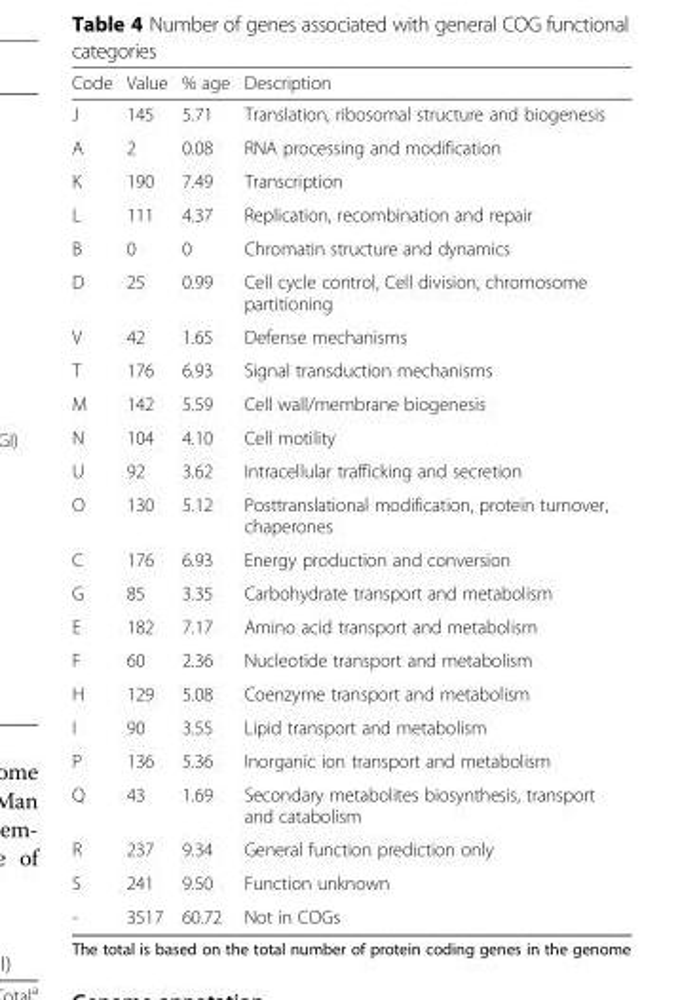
<table><thead><tr><td>Code</td><td>Value</td><td>% age</td><td>Description</td></tr></thead><tbody><tr><td>J</td><td>145</td><td>5.71</td><td>Translation, ribosomal structure and biogenesis</td></tr><tr><td>A</td><td>2</td><td>0.08</td><td>RNA processing and modification</td></tr><tr><td>K</td><td>190</td><td>7.49</td><td>Transcription</td></tr><tr><td>L</td><td>111</td><td>4.37</td><td>Replication, recombination and repair</td></tr><tr><td>B</td><td>0</td><td>0</td><td>Chromatin structure and dynamics</td></tr><tr><td>D</td><td>25</td><td>0.99</td><td>Cell cycle control, Cell division, chromosome partitioning</td></tr><tr><td>V</td><td>42</td><td>1.65</td><td>Defense mechanisms</td></tr><tr><td>T</td><td>176</td><td>6.93</td><td>Signal transduction mechanisms</td></tr><tr><td>M</td><td>142</td><td>5.59</td><td>Cell wall/membrane biogenesis</td></tr><tr><td>N</td><td>104</td><td>4.10</td><td>Cell motility</td></tr><tr><td>U</td><td>92</td><td>3.62</td><td>Intracellular trafficking and secretion</td></tr><tr><td>O</td><td>130</td><td>5.12</td><td>Posttranslational modification, protein turnover, chaperones</td></tr><tr><td>C</td><td>176</td><td>6.93</td><td>Energy production and conversion</td></tr><tr><td>G</td><td>85</td><td>3.35</td><td>Carbohydrate transport and metabolism</td></tr><tr><td>E</td><td>182</td><td>7.17</td><td>Amino acid transport and metabolism</td></tr><tr><td>F</td><td>60</td><td>2.36</td><td>Nucleotide transport and metabolism</td></tr><tr><td>H</td><td>129</td><td>5.08</td><td>Coenzyme transport and metabolism</td></tr><tr><td>I</td><td>90</td><td>3.55</td><td>Lipid transport and metabolism</td></tr><tr><td>P</td><td>136</td><td>5.36</td><td>Inorganic ion transport and metabolism</td></tr><tr><td>Q</td><td>43</td><td>1.69</td><td>Secondary metabolites biosynthesis, transport and catabolism</td></tr><tr><td>R</td><td>237</td><td>9.34</td><td>General function prediction only</td></tr><tr><td>S</td><td>241</td><td>9.50</td><td>Function unknown</td></tr><tr><td>-</td><td>3517</td><td>60.72</td><td>Not in COGs</td></tr></tbody></table>